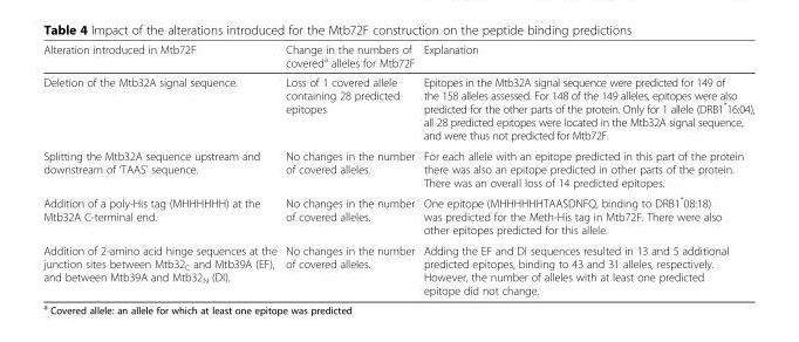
<table><thead><tr><td>Alteration introduced in Mtb72F</td><td>Change in the numbers of covered<sup>a</sup> alleles for Mtb72F</td><td>Explanation</td></tr></thead><tbody><tr><td>Deletion of the Mtb32A signal sequence.</td><td>Loss of 1 covered allele containing 28 predicted epitopes</td><td>Epitopes in the Mtb32A signal sequence were predicted for 149 of the 158 alleles assessed. For 148 of the 149 alleles, epitopes were also predicted for the other parts of the protein. Only for 1 allele (DRB1*16:04), all 28 predicted epitopes were located in the Mtb32A signal sequence, and were thus not predicted for Mtb72F.</td></tr><tr><td>Splitting the Mtb32A sequence upstream and downstream of ‘TAAS’ sequence.</td><td>No changes in the number of covered alleles.</td><td>For each allele with an epitope predicted in this part of the protein there was also an epitope predicted in other parts of the protein. There was an overall loss of 14 predicted epitopes.</td></tr><tr><td>Addition of a poly-His tag (MHHHHHH) at the Mtb32A C-terminal end.</td><td>No changes in the number of covered alleles.</td><td>One epitope (MHHHHHHTAASDNFQ, binding to DRB1*08:18) was predicted for the Meth-His tag in Mtb72F. There were also other epitopes predicted for this allele.</td></tr><tr><td>Addition of 2-amino acid hinge sequences at the junction sites between Mtb32<sub>C</sub> and Mtb39A (EF), and between Mtb39A and Mtb32<sub>N</sub> (DI).</td><td>No changes in the number of covered alleles.</td><td>Adding the EF and DI sequences resulted in 13 and 5 additional predicted epitopes, binding to 43 and 31 alleles, respectively. However, the number of alleles with at least one predicted epitope did not change.</td></tr></tbody></table>